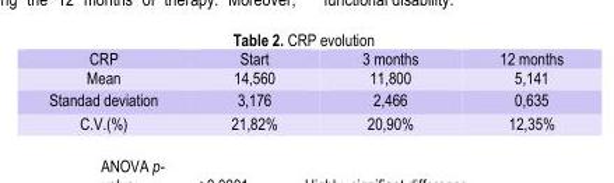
<table><thead><tr><td rowspan="4">CRP Mean Standad deviation C.V.(%)</td><td rowspan="4">Start 14,560 3,176 21,82%</td><td rowspan="4">3 months 11,800 2,466 20,90%</td><td rowspan="4">12 months 5,141 0,635 12,35%</td></tr><tr></tr><tr></tr><tr></tr></thead><tbody></tbody></table>